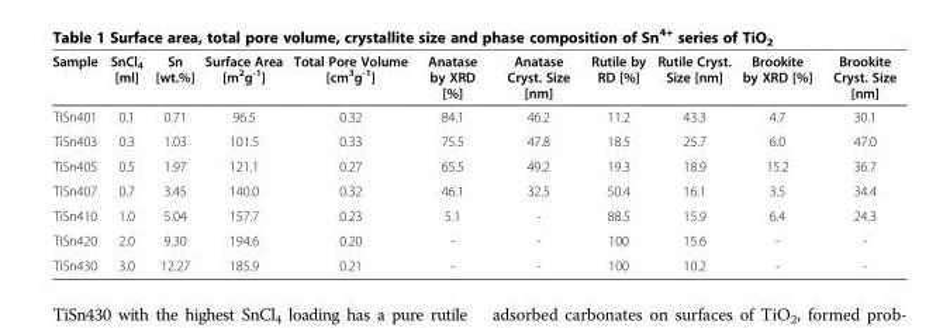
<table><thead><tr><td>Sample</td><td>SnCl<sub>4</sub> [ml]</td><td>Sn [wt.%]</td><td>Surface Area [m<sup>2</sup>g<sup>-1</sup>]</td><td>Total Pore Volume [cm<sup>3</sup>g<sup>-1</sup>]</td><td>Anatase by XRD [%]</td><td>Anatase Cryst. Size [nm]</td><td>Rutile by RD [%]</td><td>Rutile Cryst. Size [nm]</td><td>Brookite by XRD [%]</td><td>Brookite Cryst. Size [nm]</td></tr></thead><tbody><tr><td>TiSn401</td><td>0.1</td><td>0.71</td><td>96.5</td><td>0.32</td><td>84.1</td><td>46.2</td><td>11.2</td><td>43.3</td><td>4.7</td><td>30.1</td></tr><tr><td>TiSn403</td><td>0.3</td><td>1.03</td><td>101.5</td><td>0.33</td><td>75.5</td><td>47.8</td><td>18.5</td><td>25.7</td><td>6.0</td><td>47.0</td></tr><tr><td>TiSn405</td><td>0.5</td><td>1.97</td><td>121.1</td><td>0.27</td><td>65.5</td><td>49.2</td><td>19.3</td><td>18.9</td><td>15.2</td><td>36.7</td></tr><tr><td>TiSn407</td><td>0.7</td><td>3.45</td><td>140.0</td><td>0.32</td><td>46.1</td><td>32.5</td><td>50.4</td><td>16.1</td><td>3.5</td><td>34.4</td></tr><tr><td>TiSn410</td><td>1.0</td><td>5.04</td><td>157.7</td><td>0.23</td><td>5.1</td><td>-</td><td>88.5</td><td>15.9</td><td>6.4</td><td>24.3</td></tr><tr><td>TiSn420</td><td>2.0</td><td>9.30</td><td>194.6</td><td>0.20</td><td>-</td><td>-</td><td>100</td><td>15.6</td><td>-</td><td>-</td></tr><tr><td>TiSn430</td><td>3.0</td><td>12.27</td><td>185.9</td><td>0.21</td><td>-</td><td>-</td><td>100</td><td>10.2</td><td>-</td><td>-</td></tr></tbody></table>